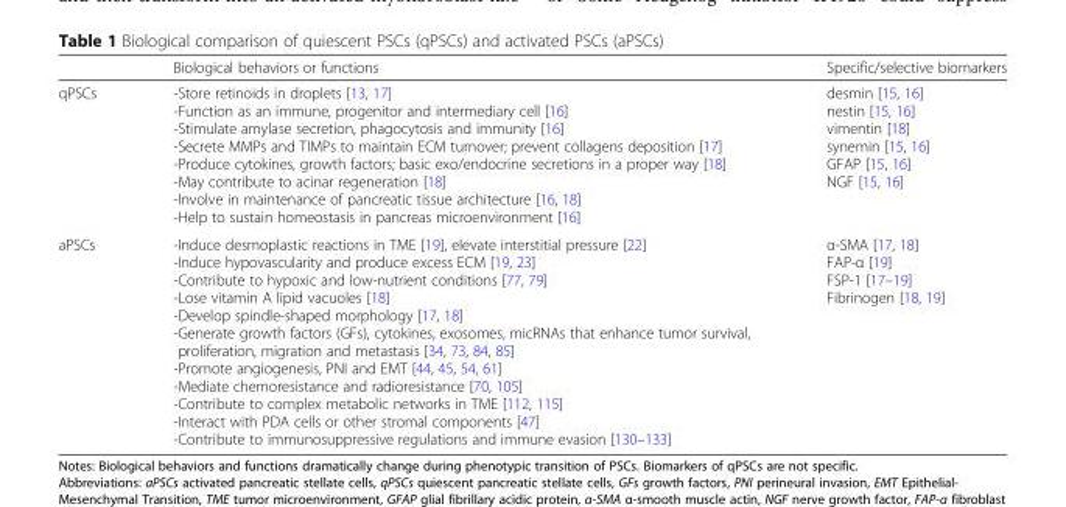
<table><thead><tr><td></td><td>Biological behaviors or functions</td><td>Specific/selective biomarkers</td></tr></thead><tbody><tr><td>qPSCs</td><td>-Store retinoids in droplets [13, 17] -Function as an immune, progenitor and intermediary cell [16] -Stimulate amylase secretion, phagocytosis and immunity [16] -Secrete MMPs and TIMPs to maintain ECM turnover; prevent collagens deposition [17] -Produce cytokines, growth factors; basic exo/endocrine secretions in a proper way [18] -May contribute to acinar regeneration [18] -Involve in maintenance of pancreatic tissue architecture [16, 18] -Help to sustain homeostasis in pancreas microenvironment [16]</td><td>desmin [15, 16] nestin [15, 16] vimentin [18] synemin [15, 16] GFAP [15, 16] NGF [15, 16]</td></tr><tr><td>aPSCs</td><td>-Induce desmoplastic reactions in TME [19], elevate interstitial pressure [22] -Induce hypovascularity and produce excess ECM [19, 23] -Contribute to hypoxic and low-nutrient conditions [77, 79] -Lose vitamin A lipid vacuoles [18] -Develop spindle-shaped morphology [17, 18] -Generate growth factors (GFs), cytokines, exosomes, micRNAs that enhance tumor survival, proliferation, migration and metastasis [34, 73, 84, 85] -Promote angiogenesis, PNI and EMT [44, 45, 54, 61] -Mediate chemoresistance and radioresistance [70, 105] -Contribute to complex metabolic networks in TME [112, 115] -Interact with PDA cells or other stromal components [47] -Contribute to immunosuppressive regulations and immune evasion [130–133]</td><td>α-SMA [17, 18] FAP-α [19] FSP-1 [17–19] Fibrinogen [18, 19]</td></tr></tbody></table>